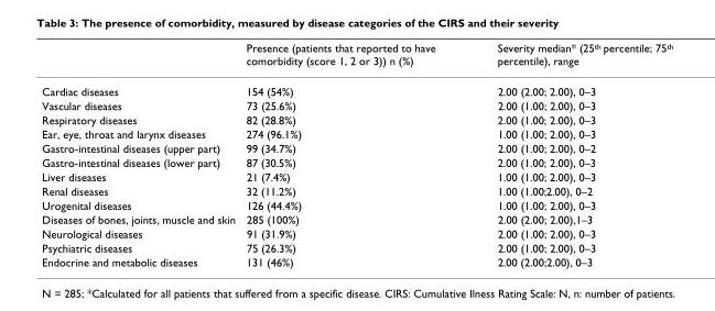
<table><thead><tr><td></td><td>Presence (patients that reported to have comorbidity (score 1, 2 or 3)) n (%)</td><td>Severity median* (25<sup>th</sup> percentile; 75<sup>th</sup> percentile), range</td></tr></thead><tbody><tr><td>Cardiac diseases</td><td>154 (54%)</td><td>2.00 (2.00; 2.00), 0–3</td></tr><tr><td>Vascular diseases</td><td>73 (25.6%)</td><td>2.00 (1.00; 2.00), 0–3</td></tr><tr><td>Respiratory diseases</td><td>82 (28.8%)</td><td>2.00 (1.00; 2.00), 0–3</td></tr><tr><td>Ear, eye, throat and larynx diseases</td><td>274 (96.1%)</td><td>1.00 (1.00; 2.00), 0–3</td></tr><tr><td>Gastro-intestinal diseases (upper part)</td><td>99 (34.7%)</td><td>2.00 (1.00; 2.00), 0–2</td></tr><tr><td>Gastro-intestinal diseases (lower part)</td><td>87 (30.5%)</td><td>2.00 (1.00; 2.00), 0–3</td></tr><tr><td>Liver diseases</td><td>21 (7.4%)</td><td>1.00 (1.00; 2.00), 0–3</td></tr><tr><td>Renal diseases</td><td>32 (11.2%)</td><td>1.00 (1.00;2.00), 0–2</td></tr><tr><td>Urogenital diseases</td><td>126 (44.4%)</td><td>1.00 (1.00; 2.00), 0–3</td></tr><tr><td>Diseases of bones, joints, muscle and skin</td><td>285 (100%)</td><td>2.00 (2.00; 2.00),1–3</td></tr><tr><td>Neurological diseases</td><td>91 (31.9%)</td><td>2.00 (1.00; 2.00), 0–3</td></tr><tr><td>Psychiatric diseases</td><td>75 (26.3%)</td><td>2.00 (1.00; 2.00), 0–3</td></tr><tr><td>Endocrine and metabolic diseases</td><td>131 (46%)</td><td>2.00 (2.00;2.00), 0–3</td></tr></tbody></table>